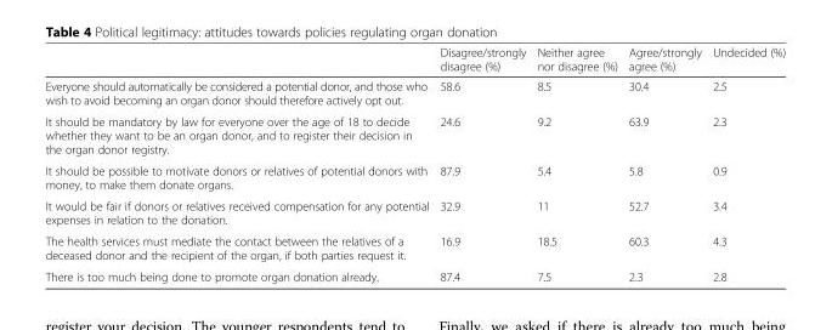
<table><thead><tr><td></td><td>Disagree/strongly disagree (%)</td><td>Neither agree nor disagree (%)</td><td>Agree/strongly agree (%)</td><td>Undecided (%)</td></tr></thead><tbody><tr><td>Everyone should automatically be considered a potential donor, and those who wish to avoid becoming an organ donor should therefore actively opt out.</td><td>58.6</td><td>8.5</td><td>30.4</td><td>2.5</td></tr><tr><td>It should be mandatory by law for everyone over the age of 18 to decide whether they want to be an organ donor, and to register their decision in the organ donor registry.</td><td>24.6</td><td>9.2</td><td>63.9</td><td>2.3</td></tr><tr><td>It should be possible to motivate donors or relatives of potential donors with money, to make them donate organs.</td><td>87.9</td><td>5.4</td><td>5.8</td><td>0.9</td></tr><tr><td>It would be fair if donors or relatives received compensation for any potential expenses in relation to the donation.</td><td>32.9</td><td>11</td><td>52.7</td><td>3.4</td></tr><tr><td>The health services must mediate the contact between the relatives of a deceased donor and the recipient of the organ, if both parties request it.</td><td>16.9</td><td>18.5</td><td>60.3</td><td>4.3</td></tr><tr><td>There is too much being done to promote organ donation already.</td><td>87.4</td><td>7.5</td><td>2.3</td><td>2.8</td></tr></tbody></table>